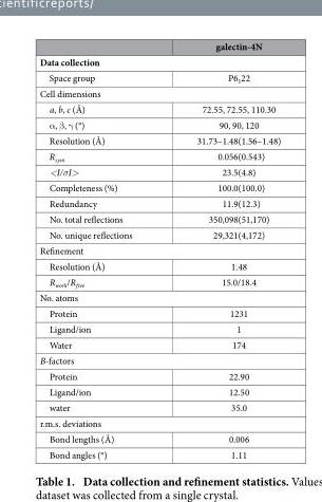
<table><thead><tr><td></td><td>galectin-4N</td></tr></thead><tbody><tr><td colspan="2">Data collection</td></tr><tr><td>Space group</td><td>P6<sub>1</sub>22</td></tr><tr><td colspan="2">Cell dimensions</td></tr><tr><td>a, b, c (Å)</td><td>72.55, 72.55, 110.30</td></tr><tr><td>α , β , γ (°)</td><td>90, 90, 120</td></tr><tr><td>Resolution (Å)</td><td>31.73–1.48(1.56–1.48)</td></tr><tr><td>R<sub>sym</sub></td><td>0.056(0.543)</td></tr><tr><td>&lt;I/σI&gt;</td><td>23.5(4.8)</td></tr><tr><td>Completeness (%)</td><td>100.0(100.0)</td></tr><tr><td>Redundancy</td><td>11.9(12.3)</td></tr><tr><td>No. total reflections</td><td>350,098(51,170)</td></tr><tr><td>No. unique reflections</td><td>29,321(4,172)</td></tr><tr><td colspan="2">Refinement</td></tr><tr><td>Resolution (Å)</td><td>1.48</td></tr><tr><td>R<sub>work</sub>/R<sub>free</sub></td><td>15.0/18.4</td></tr><tr><td colspan="2">No. atoms</td></tr><tr><td>Protein</td><td>1231</td></tr><tr><td>Ligand/ion</td><td>1</td></tr><tr><td>Water</td><td>174</td></tr><tr><td colspan="2">B-factors</td></tr><tr><td>Protein</td><td>22.90</td></tr><tr><td>Ligand/ion</td><td>12.50</td></tr><tr><td>water</td><td>35.0</td></tr><tr><td colspan="2">r.m.s. deviations</td></tr><tr><td>Bond lengths (Å)</td><td>0.006</td></tr><tr><td>Bond angles (°)</td><td>1.11</td></tr></tbody></table>